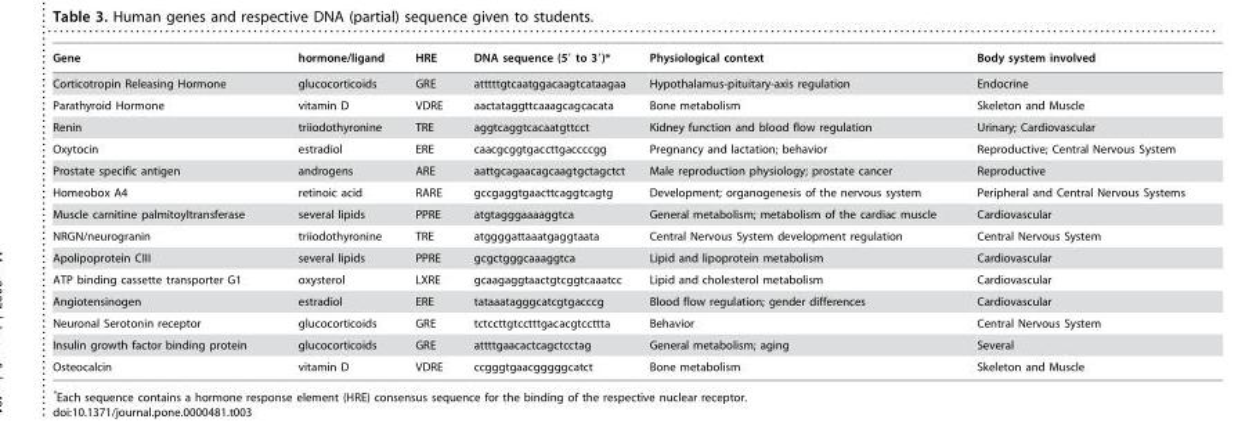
<table><thead><tr><td>Gene</td><td>hormone/ligand</td><td>HRE</td><td>DNA sequence (5′ to 3′)*</td><td>Physiological context</td><td>Body system involved</td></tr></thead><tbody><tr><td>Corticotropin Releasing Hormone</td><td>glucocorticoids</td><td>GRE</td><td>atttttgtcaatggacaagtcataagaa</td><td>Hypothalamus-pituitary-axis regulation</td><td>Endocrine</td></tr><tr><td>Parathyroid Hormone</td><td>vitamin D</td><td>VDRE</td><td>aactataggttcaaagcagcacata</td><td>Bone metabolism</td><td>Skeleton and Muscle</td></tr><tr><td>Renin</td><td>triiodothyronine</td><td>TRE</td><td>aggtcaggtcacaatgttcct</td><td>Kidney function and blood flow regulation</td><td>Urinary; Cardiovascular</td></tr><tr><td>Oxytocin</td><td>estradiol</td><td>ERE</td><td>caacgcggtgaccttgaccccgg</td><td>Pregnancy and lactation; behavior</td><td>Reproductive; Central Nervous System</td></tr><tr><td>Prostate specific antigen</td><td>androgens</td><td>ARE</td><td>aattgcagaacagcaagtgctagctct</td><td>Male reproduction physiology; prostate cancer</td><td>Reproductive</td></tr><tr><td>Homeobox A4</td><td>retinoic acid</td><td>RARE</td><td>gccgaggtgaacttcaggtcagtg</td><td>Development; organogenesis of the nervous system</td><td>Peripheral and Central Nervous Systems</td></tr><tr><td>Muscle carnitine palmitoyltransferase</td><td>several lipids</td><td>PPRE</td><td>atgtagggaaaaggtca</td><td>General metabolism; metabolism of the cardiac muscle</td><td>Cardiovascular</td></tr><tr><td>NRGN/neurogranin</td><td>triiodothyronine</td><td>TRE</td><td>atggggattaaatgaggtaata</td><td>Central Nervous System development regulation</td><td>Central Nervous System</td></tr><tr><td>Apolipoprotein CIII</td><td>several lipids</td><td>PPRE</td><td>gcgctgggcaaaggtca</td><td>Lipid and lipoprotein metabolism</td><td>Cardiovascular</td></tr><tr><td>ATP binding cassette transporter G1</td><td>oxysterol</td><td>LXRE</td><td>gcaagaggtaactgtcggtcaaatcc</td><td>Lipid and cholesterol metabolism</td><td>Cardiovascular</td></tr><tr><td>Angiotensinogen</td><td>estradiol</td><td>ERE</td><td>tataaatagggcatcgtgacccg</td><td>Blood flow regulation; gender differences</td><td>Cardiovascular</td></tr><tr><td>Neuronal Serotonin receptor</td><td>glucocorticoids</td><td>GRE</td><td>tctccttgtcctttgacacgtccttta</td><td>Behavior</td><td>Central Nervous System</td></tr><tr><td>Insulin growth factor binding protein</td><td>glucocorticoids</td><td>GRE</td><td>attttgaacactcagctcctag</td><td>General metabolism; aging</td><td>Several</td></tr><tr><td>Osteocalcin</td><td>vitamin D</td><td>VDRE</td><td>ccgggtgaacgggggcatct</td><td>Bone metabolism</td><td>Skeleton and Muscle</td></tr></tbody></table>